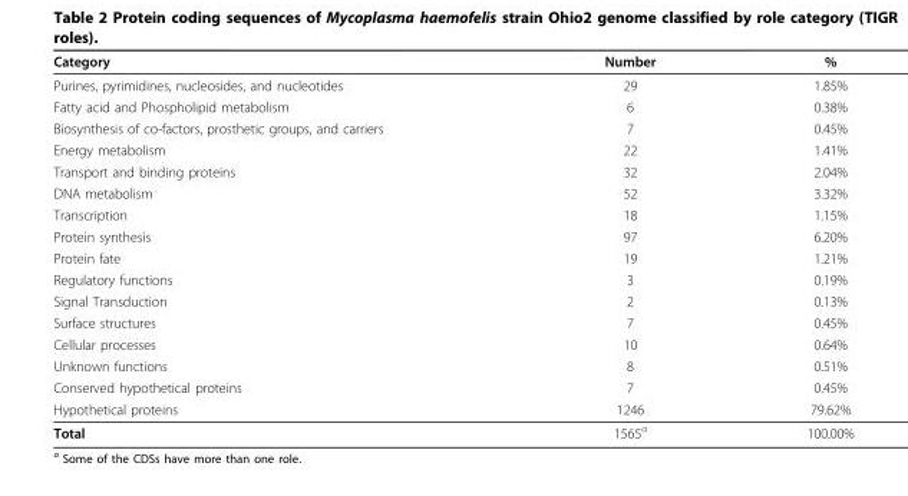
<table><thead><tr><td>Category</td><td>Number</td><td>%</td></tr></thead><tbody><tr><td>Purines, pyrimidines, nucleosides, and nucleotides</td><td>29</td><td>1.85%</td></tr><tr><td>Fatty acid and Phospholipid metabolism</td><td>6</td><td>0.38%</td></tr><tr><td>Biosynthesis of co-factors, prosthetic groups, and carriers</td><td>7</td><td>0.45%</td></tr><tr><td>Energy metabolism</td><td>22</td><td>1.41%</td></tr><tr><td>Transport and binding proteins</td><td>32</td><td>2.04%</td></tr><tr><td>DNA metabolism</td><td>52</td><td>3.32%</td></tr><tr><td>Transcription</td><td>18</td><td>1.15%</td></tr><tr><td>Protein synthesis</td><td>97</td><td>6.20%</td></tr><tr><td>Protein fate</td><td>19</td><td>1.21%</td></tr><tr><td>Regulatory functions</td><td>3</td><td>0.19%</td></tr><tr><td>Signal Transduction</td><td>2</td><td>0.13%</td></tr><tr><td>Surface structures</td><td>7</td><td>0.45%</td></tr><tr><td>Cellular processes</td><td>10</td><td>0.64%</td></tr><tr><td>Unknown functions</td><td>8</td><td>0.51%</td></tr><tr><td>Conserved hypothetical proteins</td><td>7</td><td>0.45%</td></tr><tr><td>Hypothetical proteins</td><td>1246</td><td>79.62%</td></tr><tr><td>Total</td><td>1565<sup>a</sup></td><td>100.00%</td></tr></tbody></table>